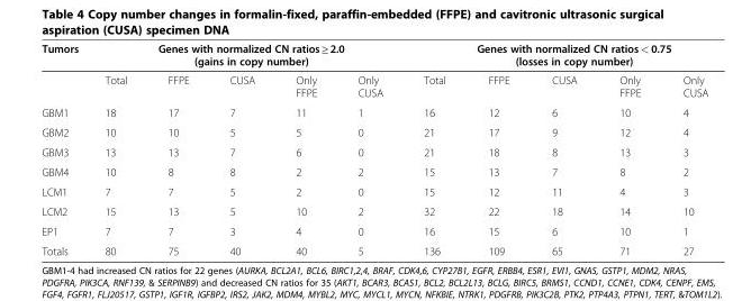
<table><thead><tr><td rowspan="2">Tumors</td><td colspan="5">Genes with normalized CN ratios ≥ 2.0 (gains in copy number)</td><td colspan="5">Genes with normalized CN ratios &lt; 0.75 (losses in copy number)</td></tr><tr><td>Total</td><td>FFPE</td><td>CUSA</td><td>Only FFPE</td><td>Only CUSA</td><td>Total</td><td>FFPE</td><td>CUSA</td><td>Only FFPE</td><td>Only CUSA</td></tr></thead><tbody><tr><td>GBM1</td><td>18</td><td>17</td><td>7</td><td>11</td><td>1</td><td>16</td><td>12</td><td>6</td><td>10</td><td>4</td></tr><tr><td>GBM2</td><td>10</td><td>10</td><td>5</td><td>5</td><td>0</td><td>21</td><td>17</td><td>9</td><td>12</td><td>4</td></tr><tr><td>GBM3</td><td>13</td><td>13</td><td>7</td><td>6</td><td>0</td><td>21</td><td>18</td><td>8</td><td>13</td><td>3</td></tr><tr><td>GBM4</td><td>10</td><td>8</td><td>8</td><td>2</td><td>2</td><td>15</td><td>13</td><td>7</td><td>8</td><td>2</td></tr><tr><td>LCM1</td><td>7</td><td>7</td><td>5</td><td>2</td><td>0</td><td>15</td><td>12</td><td>11</td><td>4</td><td>3</td></tr><tr><td>LCM2</td><td>15</td><td>13</td><td>5</td><td>10</td><td>2</td><td>32</td><td>22</td><td>18</td><td>14</td><td>10</td></tr><tr><td>EP1</td><td>7</td><td>7</td><td>3</td><td>4</td><td>0</td><td>16</td><td>15</td><td>6</td><td>10</td><td>1</td></tr><tr><td>Totals</td><td>80</td><td>75</td><td>40</td><td>40</td><td>5</td><td>136</td><td>109</td><td>65</td><td>71</td><td>27</td></tr></tbody></table>